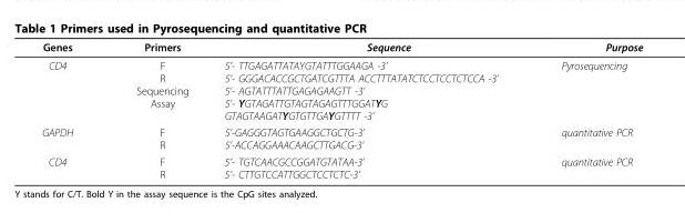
<table><thead><tr><td>Genes</td><td>Primers</td><td>Sequence</td><td>Purpose</td></tr></thead><tbody><tr><td>CD4</td><td>F R Sequencing Assay</td><td>5’- TTGAGATTATAYGTATTTGGAAGA -3’ 5’- GGGACACCGCTGATCGTTTA ACCTTTATATCTCCTCCTCTCCA -3’ 5’- AGTATTTATTGAGAGAAGTT -3’ 5’- YGTAGATTGTAGTAGAGTTTGGATYG GTAGTAAGATYGTGTTGAYGTTTT -3’</td><td>Pyrosequencing</td></tr><tr><td>GAPDH</td><td>F R</td><td>5’-GAGGGTAGTGAAGGCTGCTG-3’ 5’-ACCAGGAAACAAGCTTGACG-3’</td><td>quantitative PCR</td></tr><tr><td>CD4</td><td>F R</td><td>5’- TGTCAACGCCGGATGTATAA-3’ 5’- CTTGTCCATTGGCTCCTCTC-3’</td><td>quantitative PCR</td></tr></tbody></table>